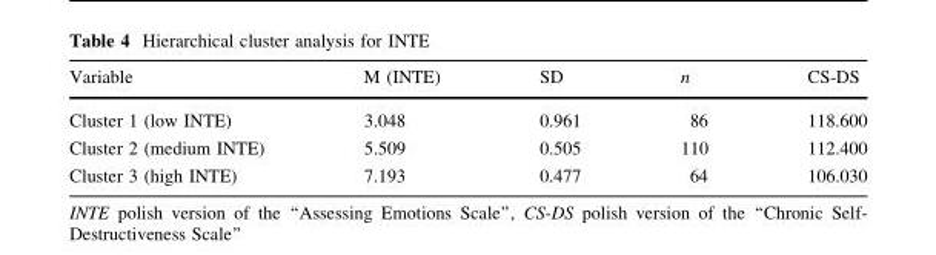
<table><thead><tr><td>Variable</td><td>M (INTE)</td><td>SD</td><td>n</td><td>CS-DS</td></tr></thead><tbody><tr><td>Cluster 1 (low INTE)</td><td>3.048</td><td>0.961</td><td>86</td><td>118.600</td></tr><tr><td>Cluster 2 (medium INTE)</td><td>5.509</td><td>0.505</td><td>110</td><td>112.400</td></tr><tr><td>Cluster 3 (high INTE)</td><td>7.193</td><td>0.477</td><td>64</td><td>106.030</td></tr></tbody></table>